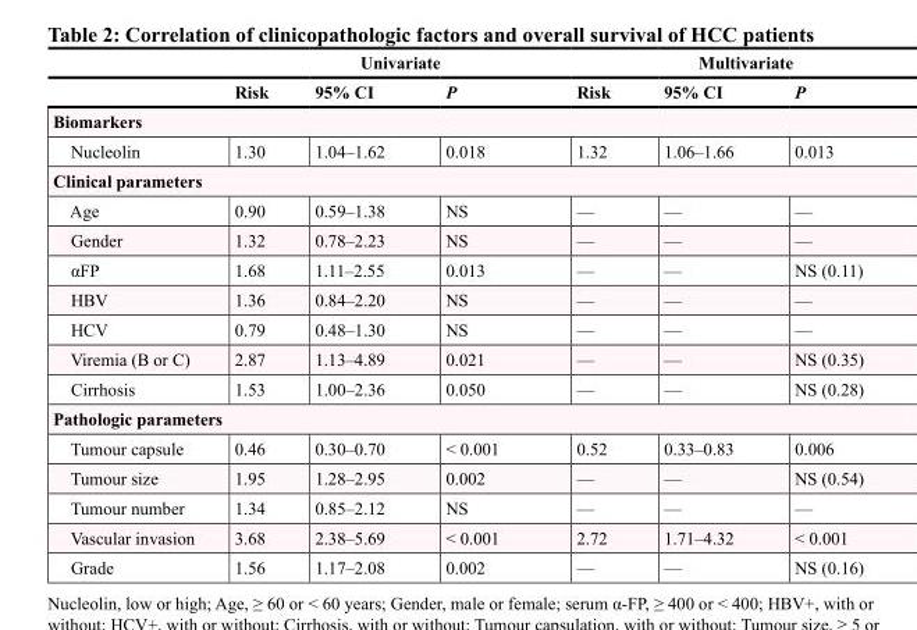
<table><thead><tr><td rowspan="2"></td><td colspan="3">Univariate</td><td colspan="3">Multivariate</td></tr><tr><td>Risk</td><td>95% CI</td><td>P</td><td>Risk</td><td>95% CI</td><td>P</td></tr></thead><tbody><tr><td colspan="7">Biomarkers</td></tr><tr><td>Nucleolin</td><td>1.30</td><td>1.04–1.62</td><td>0.018</td><td>1.32</td><td>1.06–1.66</td><td>0.013</td></tr><tr><td colspan="7">Clinical parameters</td></tr><tr><td>Age</td><td>0.90</td><td>0.59–1.38</td><td>NS</td><td>—</td><td>—</td><td>—</td></tr><tr><td>Gender</td><td>1.32</td><td>0.78–2.23</td><td>NS</td><td>—</td><td>—</td><td>—</td></tr><tr><td>αFP</td><td>1.68</td><td>1.11–2.55</td><td>0.013</td><td>—</td><td>—</td><td>NS (0.11)</td></tr><tr><td>HBV</td><td>1.36</td><td>0.84–2.20</td><td>NS</td><td>—</td><td>—</td><td>—</td></tr><tr><td>HCV</td><td>0.79</td><td>0.48–1.30</td><td>NS</td><td>—</td><td>—</td><td>—</td></tr><tr><td>Viremia (B or C)</td><td>2.87</td><td>1.13–4.89</td><td>0.021</td><td>—</td><td>—</td><td>NS (0.35)</td></tr><tr><td>Cirrhosis</td><td>1.53</td><td>1.00–2.36</td><td>0.050</td><td>—</td><td>—</td><td>NS (0.28)</td></tr><tr><td colspan="7">Pathologic parameters</td></tr><tr><td>Tumour capsule</td><td>0.46</td><td>0.30–0.70</td><td>&lt; 0.001</td><td>0.52</td><td>0.33–0.83</td><td>0.006</td></tr><tr><td>Tumour size</td><td>1.95</td><td>1.28–2.95</td><td>0.002</td><td>—</td><td>—</td><td>NS (0.54)</td></tr><tr><td>Tumour number</td><td>1.34</td><td>0.85–2.12</td><td>NS</td><td>—</td><td>—</td><td>—</td></tr><tr><td>Vascular invasion</td><td>3.68</td><td>2.38–5.69</td><td>&lt; 0.001</td><td>2.72</td><td>1.71–4.32</td><td>&lt; 0.001</td></tr><tr><td>Grade</td><td>1.56</td><td>1.17–2.08</td><td>0.002</td><td>—</td><td>—</td><td>NS (0.16)</td></tr></tbody></table>